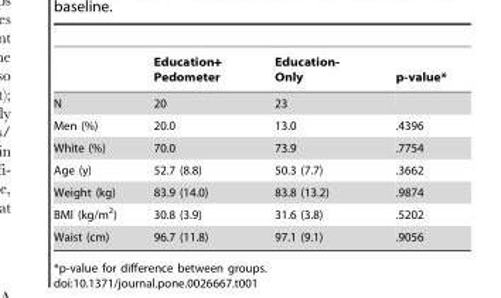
<table><thead><tr><td></td><td>Education+ Pedometer</td><td>Education- Only</td><td>p-value*</td></tr></thead><tbody><tr><td>N</td><td>20</td><td>23</td><td></td></tr><tr><td>Men (%)</td><td>20.0</td><td>13.0</td><td>.4396</td></tr><tr><td>White (%)</td><td>70.0</td><td>73.9</td><td>.7754</td></tr><tr><td>Age (y)</td><td>52.7 (8.8)</td><td>50.3 (7.7)</td><td>.3662</td></tr><tr><td>Weight (kg)</td><td>83.9 (14.0)</td><td>83.8 (13.2)</td><td>.9874</td></tr><tr><td>BMI (kg/m<sup>2</sup>)</td><td>30.8 (3.9)</td><td>31.6 (3.8)</td><td>.5202</td></tr><tr><td>Waist (cm)</td><td>96.7 (11.8)</td><td>97.1 (9.1)</td><td>.9056</td></tr></tbody></table>